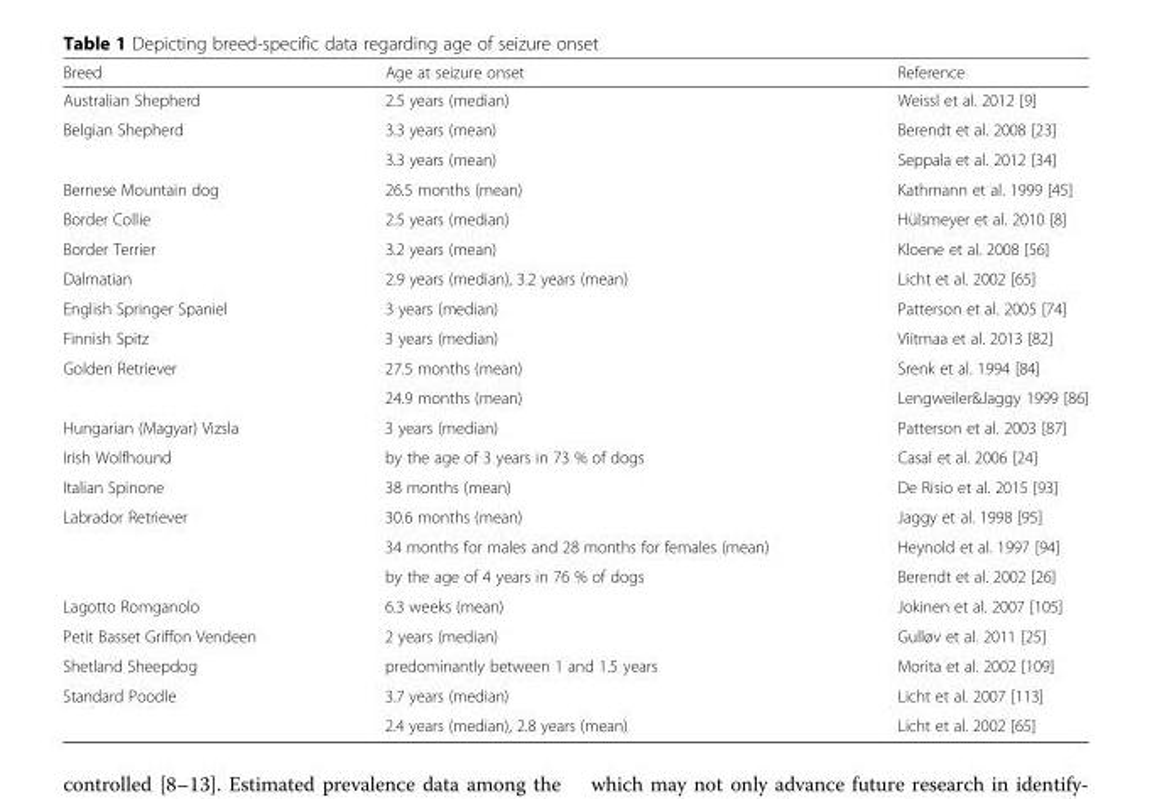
<table><thead><tr><td>Breed</td><td>Age at seizure onset</td><td>Reference</td></tr></thead><tbody><tr><td>Australian Shepherd</td><td>2.5 years (median)</td><td>Weissl et al. 2012 [9]</td></tr><tr><td rowspan="2">Belgian Shepherd</td><td>3.3 years (mean)</td><td>Berendt et al. 2008 [23]</td></tr><tr><td>3.3 years (mean)</td><td>Seppala et al. 2012 [34]</td></tr><tr><td>Bernese Mountain dog</td><td>26.5 months (mean)</td><td>Kathmann et al. 1999 [45]</td></tr><tr><td>Border Collie</td><td>2.5 years (median)</td><td>Hülsmeyer et al. 2010 [8]</td></tr><tr><td>Border Terrier</td><td>3.2 years (mean)</td><td>Kloene et al. 2008 [56]</td></tr><tr><td>Dalmatian</td><td>2.9 years (median), 3.2 years (mean)</td><td>Licht et al. 2002 [65]</td></tr><tr><td>English Springer Spaniel</td><td>3 years (median)</td><td>Patterson et al. 2005 [74]</td></tr><tr><td>Finnish Spitz</td><td>3 years (median)</td><td>Viitmaa et al. 2013 [82]</td></tr><tr><td rowspan="2">Golden Retriever</td><td>27.5 months (mean)</td><td>Srenk et al. 1994 [84]</td></tr><tr><td>24.9 months (mean)</td><td>Lengweiler&amp;Jaggy 1999 [86]</td></tr><tr><td>Hungarian (Magyar) Vizsla</td><td>3 years (median)</td><td>Patterson et al. 2003 [87]</td></tr><tr><td>Irish Wolfhound</td><td>by the age of 3 years in 73 % of dogs</td><td>Casal et al. 2006 [24]</td></tr><tr><td>Italian Spinone</td><td>38 months (mean)</td><td>De Risio et al. 2015 [93]</td></tr><tr><td rowspan="3">Labrador Retriever</td><td>30.6 months (mean)</td><td>Jaggy et al. 1998 [95]</td></tr><tr><td>34 months for males and 28 months for females (mean)</td><td>Heynold et al. 1997 [94]</td></tr><tr><td>by the age of 4 years in 76 % of dogs</td><td>Berendt et al. 2002 [26]</td></tr><tr><td>Lagotto Romganolo</td><td>6.3 weeks (mean)</td><td>Jokinen et al. 2007 [105]</td></tr><tr><td>Petit Basset Griffon Vendeen</td><td>2 years (median)</td><td>Gulløv et al. 2011 [25]</td></tr><tr><td>Shetland Sheepdog</td><td>predominantly between 1 and 1.5 years</td><td>Morita et al. 2002 [109]</td></tr><tr><td rowspan="2">Standard Poodle</td><td>3.7 years (median)</td><td>Licht et al. 2007 [113]</td></tr><tr><td>2.4 years (median), 2.8 years (mean)</td><td>Licht et al. 2002 [65]</td></tr></tbody></table>